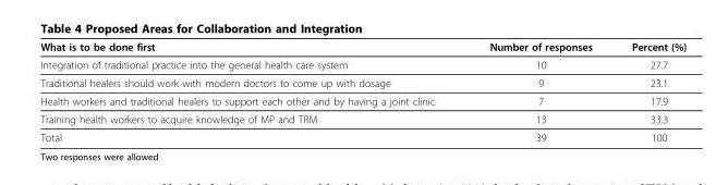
<table><thead><tr><td>What is to be done first</td><td>Number of responses</td><td>Percent (%)</td></tr></thead><tbody><tr><td>Integration of traditional practice into the general health care system</td><td>10</td><td>27.7</td></tr><tr><td>Traditional healers should work with modern doctors to come up with dosage</td><td>9</td><td>23.1</td></tr><tr><td>Health workers and traditional healers to support each other and by having a joint clinic</td><td>7</td><td>17.9</td></tr><tr><td>Training health workers to acquire knowledge of MP and TRM</td><td>13</td><td>33.3</td></tr><tr><td>Total</td><td>39</td><td>100</td></tr></tbody></table>